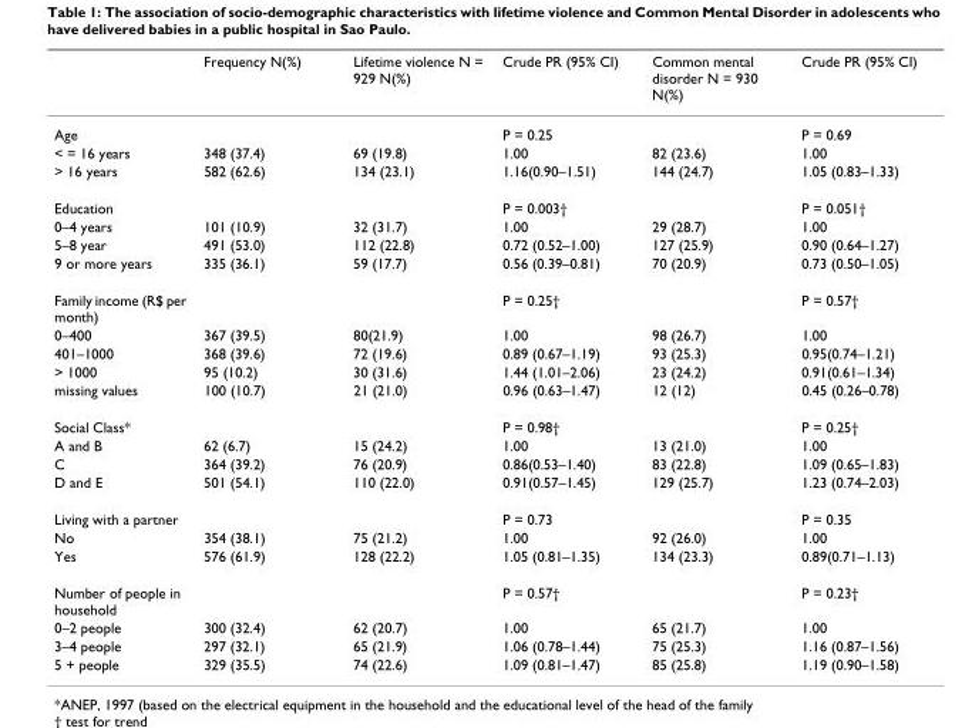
<table><thead><tr><td></td><td>Frequency N(%)</td><td>Lifetime violence N = 929 N(%)</td><td>Crude PR (95% CI)</td><td>Common mental disorder N = 930 N(%)</td><td>Crude PR (95% CI)</td></tr></thead><tbody><tr><td>Age</td><td></td><td></td><td>P = 0.25</td><td></td><td>P = 0.69</td></tr><tr><td>&lt; = 16 years</td><td>348 (37.4)</td><td>69 (19.8)</td><td>1.00</td><td>82 (23.6)</td><td>1.00</td></tr><tr><td>&gt; 16 years</td><td>582 (62.6)</td><td>134 (23.1)</td><td>1.16(0.90–1.51)</td><td>144 (24.7)</td><td>1.05 (0.83–1.33)</td></tr><tr><td>Education</td><td></td><td></td><td>P = 0.003†</td><td></td><td>P = 0.051†</td></tr><tr><td>0–4 years</td><td>101 (10.9)</td><td>32 (31.7)</td><td>1.00</td><td>29 (28.7)</td><td>1.00</td></tr><tr><td>5–8 year</td><td>491 (53.0)</td><td>112 (22.8)</td><td>0.72 (0.52–1.00)</td><td>127 (25.9)</td><td>0.90 (0.64–1.27)</td></tr><tr><td>9 or more years</td><td>335 (36.1)</td><td>59 (17.7)</td><td>0.56 (0.39–0.81)</td><td>70 (20.9)</td><td>0.73 (0.50–1.05)</td></tr><tr><td>Family income (R$ per month)</td><td></td><td></td><td>P = 0.25†</td><td></td><td>P = 0.57†</td></tr><tr><td>0–400</td><td>367 (39.5)</td><td>80(21.9)</td><td>1.00</td><td>98 (26.7)</td><td>1.00</td></tr><tr><td>401–1000</td><td>368 (39.6)</td><td>72 (19.6)</td><td>0.89 (0.67–1.19)</td><td>93 (25.3)</td><td>0.95(0.74–1.21)</td></tr><tr><td>&gt; 1000</td><td>95 (10.2)</td><td>30 (31.6)</td><td>1.44 (1.01–2.06)</td><td>23 (24.2)</td><td>0.91(0.61–1.34)</td></tr><tr><td>missing values</td><td>100 (10.7)</td><td>21 (21.0)</td><td>0.96 (0.63–1.47)</td><td>12 (12)</td><td>0.45 (0.26–0.78)</td></tr><tr><td>Social Class*</td><td></td><td></td><td>P = 0.98†</td><td></td><td>P = 0.25†</td></tr><tr><td>A and B</td><td>62 (6.7)</td><td>15 (24.2)</td><td>1.00</td><td>13 (21.0)</td><td>1.00</td></tr><tr><td>C</td><td>364 (39.2)</td><td>76 (20.9)</td><td>0.86(0.53–1.40)</td><td>83 (22.8)</td><td>1.09 (0.65–1.83)</td></tr><tr><td>D and E</td><td>501 (54.1)</td><td>110 (22.0)</td><td>0.91(0.57–1.45)</td><td>129 (25.7)</td><td>1.23 (0.74–2.03)</td></tr><tr><td>Living with a partner</td><td></td><td></td><td>P = 0.73</td><td></td><td>P = 0.35</td></tr><tr><td>No</td><td>354 (38.1)</td><td>75 (21.2)</td><td>1.00</td><td>92 (26.0)</td><td>1.00</td></tr><tr><td>Yes</td><td>576 (61.9)</td><td>128 (22.2)</td><td>1.05 (0.81–1.35)</td><td>134 (23.3)</td><td>0.89(0.71–1.13)</td></tr><tr><td>Number of people in household</td><td></td><td></td><td>P = 0.57†</td><td></td><td>P = 0.23†</td></tr><tr><td>0–2 people</td><td>300 (32.4)</td><td>62 (20.7)</td><td>1.00</td><td>65 (21.7)</td><td>1.00</td></tr><tr><td>3–4 people</td><td>297 (32.1)</td><td>65 (21.9)</td><td>1.06 (0.78–1.44)</td><td>75 (25.3)</td><td>1.16 (0.87–1.56)</td></tr><tr><td>5 + people</td><td>329 (35.5)</td><td>74 (22.6)</td><td>1.09 (0.81–1.47)</td><td>85 (25.8)</td><td>1.19 (0.90–1.58)</td></tr></tbody></table>